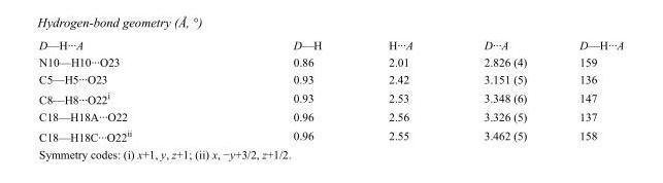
<table><tbody><tr><td>D—H···A</td><td>D—H</td><td>H···A</td><td>D···A</td><td>D—H···A</td></tr><tr><td>N10—H10···O23</td><td>0.86</td><td>2.01</td><td>2.826 (4)</td><td>159</td></tr><tr><td>C5—H5···O23</td><td>0.93</td><td>2.42</td><td>3.151 (5)</td><td>136</td></tr><tr><td>C8—H8···O22<sup>i</sup></td><td>0.93</td><td>2.53</td><td>3.348 (6)</td><td>147</td></tr><tr><td>C18—H18A···O22</td><td>0.96</td><td>2.56</td><td>3.326 (5)</td><td>137</td></tr><tr><td>C18—H18C···O22<sup>ii</sup></td><td>0.96</td><td>2.55</td><td>3.462 (5)</td><td>158</td></tr></tbody></table>